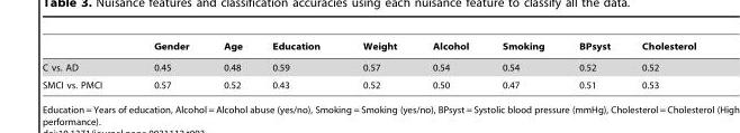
<table><thead><tr><td></td><td>Gender</td><td>Age</td><td>Education</td><td>Weight</td><td>Alcohol</td><td>Smoking</td><td>BPsyst</td><td>Cholesterol</td></tr></thead><tbody><tr><td>C vs. AD</td><td>0.45</td><td>0.48</td><td>0.59</td><td>0.57</td><td>0.54</td><td>0.54</td><td>0.52</td><td>0.52</td></tr><tr><td>SMCI vs. PMCI</td><td>0.57</td><td>0.52</td><td>0.43</td><td>0.52</td><td>0.50</td><td>0.47</td><td>0.51</td><td>0.53</td></tr></tbody></table>